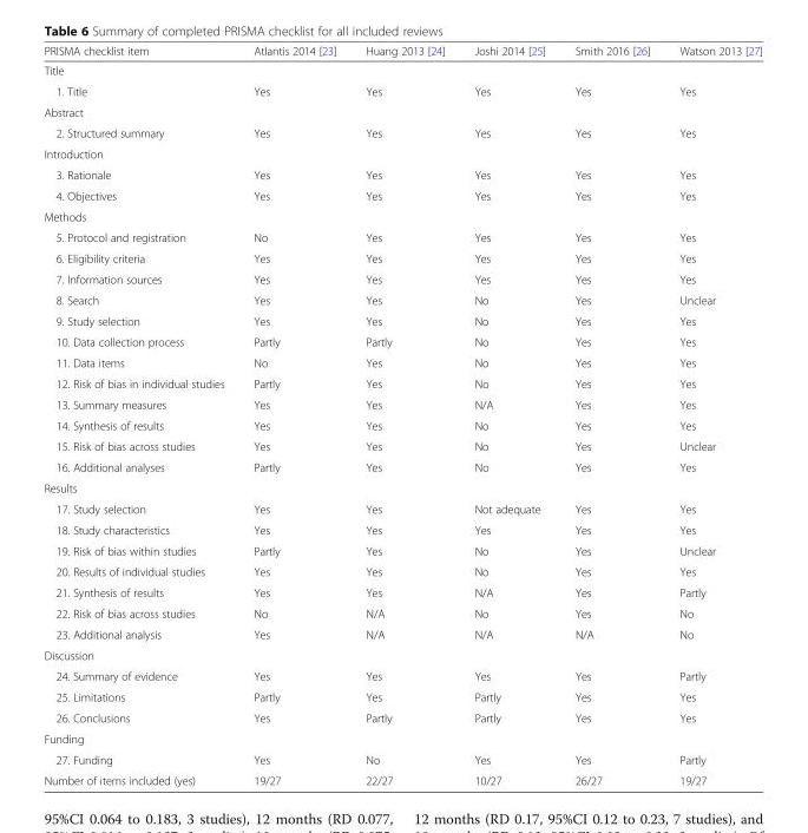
<table><thead><tr><td>PRISMA checklist item</td><td>Atlantis 2014 [23]</td><td>Huang 2013 [24]</td><td>Joshi 2014 [25]</td><td>Smith 2016 [26]</td><td>Watson 2013 [27]</td></tr></thead><tbody><tr><td colspan="6">Title</td></tr><tr><td>1. Title</td><td>Yes</td><td>Yes</td><td>Yes</td><td>Yes</td><td>Yes</td></tr><tr><td colspan="6">Abstract</td></tr><tr><td>2. Structured summary</td><td>Yes</td><td>Yes</td><td>Yes</td><td>Yes</td><td>Yes</td></tr><tr><td colspan="6">Introduction</td></tr><tr><td>3. Rationale</td><td>Yes</td><td>Yes</td><td>Yes</td><td>Yes</td><td>Yes</td></tr><tr><td>4. Objectives</td><td>Yes</td><td>Yes</td><td>Yes</td><td>Yes</td><td>Yes</td></tr><tr><td colspan="6">Methods</td></tr><tr><td>5. Protocol and registration</td><td>No</td><td>Yes</td><td>Yes</td><td>Yes</td><td>Yes</td></tr><tr><td>6. Eligibility criteria</td><td>Yes</td><td>Yes</td><td>Yes</td><td>Yes</td><td>Yes</td></tr><tr><td>7. Information sources</td><td>Yes</td><td>Yes</td><td>Yes</td><td>Yes</td><td>Yes</td></tr><tr><td>8. Search</td><td>Yes</td><td>Yes</td><td>No</td><td>Yes</td><td>Unclear</td></tr><tr><td>9. Study selection</td><td>Yes</td><td>Yes</td><td>No</td><td>Yes</td><td>Yes</td></tr><tr><td>10. Data collection process</td><td>Partly</td><td>Partly</td><td>No</td><td>Yes</td><td>Yes</td></tr><tr><td>11. Data items</td><td>No</td><td>Yes</td><td>No</td><td>Yes</td><td>Yes</td></tr><tr><td>12. Risk of bias in individual studies</td><td>Partly</td><td>Yes</td><td>No</td><td>Yes</td><td>Yes</td></tr><tr><td>13. Summary measures</td><td>Yes</td><td>Yes</td><td>N/A</td><td>Yes</td><td>Yes</td></tr><tr><td>14. Synthesis of results</td><td>Yes</td><td>Yes</td><td>No</td><td>Yes</td><td>Yes</td></tr><tr><td>15. Risk of bias across studies</td><td>Yes</td><td>Yes</td><td>No</td><td>Yes</td><td>Unclear</td></tr><tr><td>16. Additional analyses</td><td>Partly</td><td>Yes</td><td>No</td><td>Yes</td><td>Yes</td></tr><tr><td colspan="6">Results</td></tr><tr><td>17. Study selection</td><td>Yes</td><td>Yes</td><td>Not adequate</td><td>Yes</td><td>Yes</td></tr><tr><td>18. Study characteristics</td><td>Yes</td><td>Yes</td><td>Yes</td><td>Yes</td><td>Yes</td></tr><tr><td>19. Risk of bias within studies</td><td>Partly</td><td>Yes</td><td>No</td><td>Yes</td><td>Unclear</td></tr><tr><td>20. Results of individual studies</td><td>Yes</td><td>Yes</td><td>No</td><td>Yes</td><td>Yes</td></tr><tr><td>21. Synthesis of results</td><td>Yes</td><td>Yes</td><td>N/A</td><td>Yes</td><td>Partly</td></tr><tr><td>22. Risk of bias across studies</td><td>No</td><td>N/A</td><td>No</td><td>Yes</td><td>No</td></tr><tr><td>23. Additional analysis</td><td>Yes</td><td>N/A</td><td>N/A</td><td>N/A</td><td>No</td></tr><tr><td colspan="6">Discussion</td></tr><tr><td>24. Summary of evidence</td><td>Yes</td><td>Yes</td><td>Yes</td><td>Yes</td><td>Partly</td></tr><tr><td>25. Limitations</td><td>Partly</td><td>Yes</td><td>Partly</td><td>Yes</td><td>Yes</td></tr><tr><td>26. Conclusions</td><td>Yes</td><td>Partly</td><td>Partly</td><td>Yes</td><td>Yes</td></tr><tr><td colspan="6">Funding</td></tr><tr><td>27. Funding</td><td>Yes</td><td>No</td><td>Yes</td><td>Yes</td><td>Partly</td></tr><tr><td>Number of items included (yes)</td><td>19/27</td><td>22/27</td><td>10/27</td><td>26/27</td><td>19/27</td></tr></tbody></table>